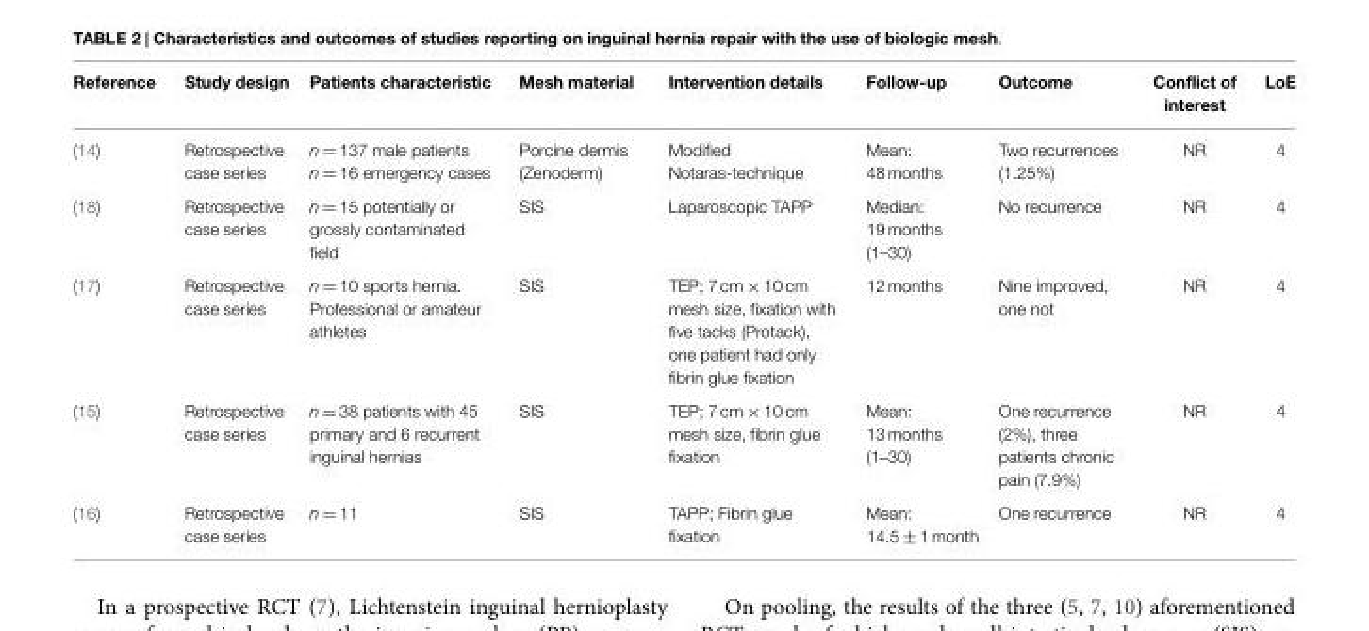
<table><thead><tr><td>Reference</td><td>Study design</td><td>Patients characteristic</td><td>Mesh material</td><td>Intervention details</td><td>Follow-up</td><td>Outcome</td><td>Conflict of interest</td><td>LoE</td></tr></thead><tbody><tr><td>(14)</td><td>Retrospective case series</td><td>n = 137 male patients n = 16 emergency cases</td><td>Porcine dermis (Zenoderm)</td><td>Modified Notaras-technique</td><td>Mean: 48 months</td><td>Two recurrences (1.25%)</td><td>NR</td><td>4</td></tr><tr><td>(18)</td><td>Retrospective case series</td><td>n = 15 potentially or grossly contaminated field</td><td>SIS</td><td>Laparoscopic TAPP</td><td>Median: 19 months (1–30)</td><td>No recurrence</td><td>NR</td><td>4</td></tr><tr><td>(17)</td><td>Retrospective case series</td><td>n = 10 sports hernia. Professional or amateur athletes</td><td>SIS</td><td>TEP; 7 cm × 10 cm mesh size, fixation with five tacks (Protack), one patient had only fibrin glue fixation</td><td>12 months</td><td>Nine improved, one not</td><td>NR</td><td>4</td></tr><tr><td>(15)</td><td>Retrospective case series</td><td>n = 38 patients with 45 primary and 6 recurrent inguinal hernias</td><td>SIS</td><td>TEP; 7 cm × 10 cm mesh size, fibrin glue fixation</td><td>Mean: 13 months (1–30)</td><td>One recurrence (2%), three patients chronic pain (7.9%)</td><td>NR</td><td>4</td></tr><tr><td>(16)</td><td>Retrospective case series</td><td>n = 11</td><td>SIS</td><td>TAPP; Fibrin glue fixation</td><td>Mean: 14.5 ± 1 month</td><td>One recurrence</td><td>NR</td><td>4</td></tr></tbody></table>